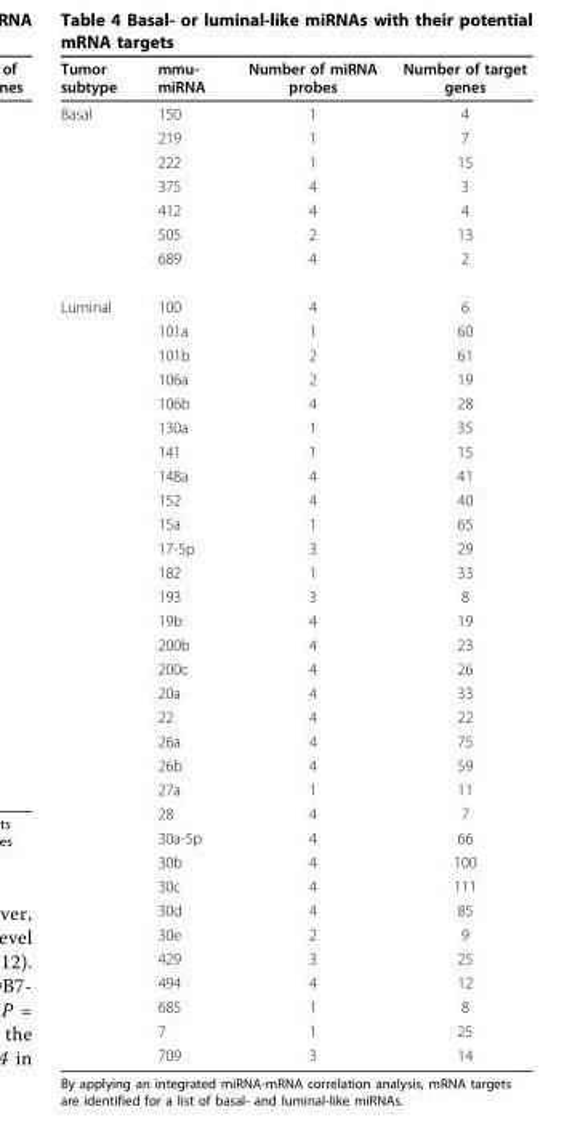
<table><thead><tr><td>Tumor subtype</td><td>mmu- miRNA</td><td>Number of miRNA probes</td><td>Number of target genes</td></tr></thead><tbody><tr><td rowspan="7">Basal</td><td>150</td><td>1</td><td>4</td></tr><tr><td>219</td><td>1</td><td>7</td></tr><tr><td>222</td><td>1</td><td>15</td></tr><tr><td>375</td><td>4</td><td>3</td></tr><tr><td>412</td><td>4</td><td>4</td></tr><tr><td>505</td><td>2</td><td>13</td></tr><tr><td>689</td><td>4</td><td>2</td></tr><tr><td rowspan="32">Luminal</td><td>100</td><td>4</td><td>6</td></tr><tr><td>101a</td><td>1</td><td>60</td></tr><tr><td>101b</td><td>2</td><td>61</td></tr><tr><td>106a</td><td>2</td><td>19</td></tr><tr><td>106b</td><td>4</td><td>28</td></tr><tr><td>130a</td><td>1</td><td>35</td></tr><tr><td>141</td><td>1</td><td>15</td></tr><tr><td>148a</td><td>4</td><td>41</td></tr><tr><td>152</td><td>4</td><td>40</td></tr><tr><td>15a</td><td>1</td><td>65</td></tr><tr><td>17-5p</td><td>3</td><td>29</td></tr><tr><td>182</td><td>1</td><td>33</td></tr><tr><td>193</td><td>3</td><td>8</td></tr><tr><td>19b</td><td>4</td><td>19</td></tr><tr><td>200b</td><td>4</td><td>23</td></tr><tr><td>200c</td><td>4</td><td>26</td></tr><tr><td>20a</td><td>4</td><td>33</td></tr><tr><td>22</td><td>4</td><td>22</td></tr><tr><td>26a</td><td>4</td><td>75</td></tr><tr><td>26b</td><td>4</td><td>59</td></tr><tr><td>27a</td><td>1</td><td>11</td></tr><tr><td>28</td><td>4</td><td>7</td></tr><tr><td>30a-5p</td><td>4</td><td>66</td></tr><tr><td>30b</td><td>4</td><td>100</td></tr><tr><td>30c</td><td>4</td><td>111</td></tr><tr><td>30d</td><td>4</td><td>85</td></tr><tr><td>30e</td><td>2</td><td>9</td></tr><tr><td>429</td><td>3</td><td>25</td></tr><tr><td>494</td><td>4</td><td>12</td></tr><tr><td>685</td><td>1</td><td>8</td></tr><tr><td>7</td><td>1</td><td>25</td></tr><tr><td>709</td><td>3</td><td>14</td></tr></tbody></table>